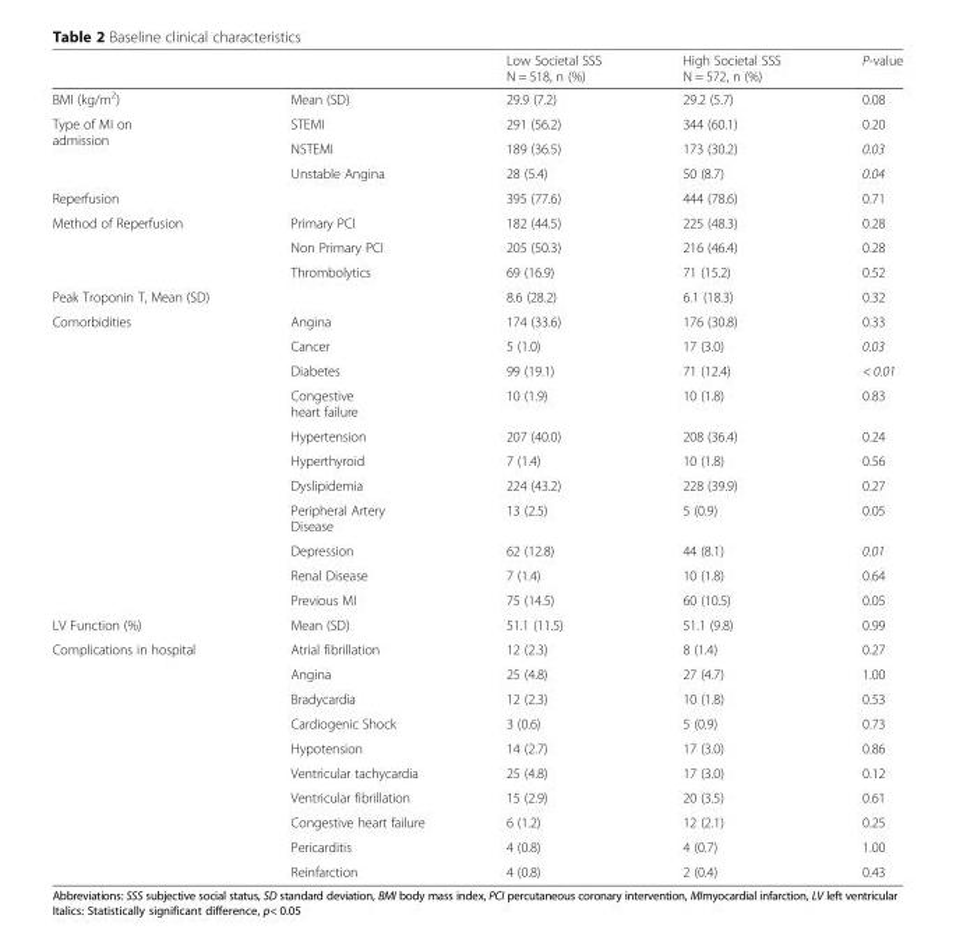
<table><thead><tr><td></td><td></td><td>Low Societal SSS N = 518, n (%)</td><td>High Societal SSS N = 572, n (%)</td><td>P-value</td></tr></thead><tbody><tr><td>BMI (kg/m<sup>2</sup>)</td><td>Mean (SD)</td><td>29.9 (7.2)</td><td>29.2 (5.7)</td><td>0.08</td></tr><tr><td rowspan="3">Type of MI on admission</td><td>STEMI</td><td>291 (56.2)</td><td>344 (60.1)</td><td>0.20</td></tr><tr><td>NSTEMI</td><td>189 (36.5)</td><td>173 (30.2)</td><td>0.03</td></tr><tr><td>Unstable Angina</td><td>28 (5.4)</td><td>50 (8.7)</td><td>0.04</td></tr><tr><td>Reperfusion</td><td></td><td>395 (77.6)</td><td>444 (78.6)</td><td>0.71</td></tr><tr><td rowspan="3">Method of Reperfusion</td><td>Primary PCI</td><td>182 (44.5)</td><td>225 (48.3)</td><td>0.28</td></tr><tr><td>Non Primary PCI</td><td>205 (50.3)</td><td>216 (46.4)</td><td>0.28</td></tr><tr><td>Thrombolytics</td><td>69 (16.9)</td><td>71 (15.2)</td><td>0.52</td></tr><tr><td>Peak Troponin T, Mean (SD)</td><td></td><td>8.6 (28.2)</td><td>6.1 (18.3)</td><td>0.32</td></tr><tr><td rowspan="11">Comorbidities</td><td>Angina</td><td>174 (33.6)</td><td>176 (30.8)</td><td>0.33</td></tr><tr><td>Cancer</td><td>5 (1.0)</td><td>17 (3.0)</td><td>0.03</td></tr><tr><td>Diabetes</td><td>99 (19.1)</td><td>71 (12.4)</td><td>&lt; 0.01</td></tr><tr><td>Congestive heart failure</td><td>10 (1.9)</td><td>10 (1.8)</td><td>0.83</td></tr><tr><td>Hypertension</td><td>207 (40.0)</td><td>208 (36.4)</td><td>0.24</td></tr><tr><td>Hyperthyroid</td><td>7 (1.4)</td><td>10 (1.8)</td><td>0.56</td></tr><tr><td>Dyslipidemia</td><td>224 (43.2)</td><td>228 (39.9)</td><td>0.27</td></tr><tr><td>Peripheral Artery Disease</td><td>13 (2.5)</td><td>5 (0.9)</td><td>0.05</td></tr><tr><td>Depression</td><td>62 (12.8)</td><td>44 (8.1)</td><td>0.01</td></tr><tr><td>Renal Disease</td><td>7 (1.4)</td><td>10 (1.8)</td><td>0.64</td></tr><tr><td>Previous MI</td><td>75 (14.5)</td><td>60 (10.5)</td><td>0.05</td></tr><tr><td>LV Function (%)</td><td>Mean (SD)</td><td>51.1 (11.5)</td><td>51.1 (9.8)</td><td>0.99</td></tr><tr><td rowspan="10">Complications in hospital</td><td>Atrial fibrillation</td><td>12 (2.3)</td><td>8 (1.4)</td><td>0.27</td></tr><tr><td>Angina</td><td>25 (4.8)</td><td>27 (4.7)</td><td>1.00</td></tr><tr><td>Bradycardia</td><td>12 (2.3)</td><td>10 (1.8)</td><td>0.53</td></tr><tr><td>Cardiogenic Shock</td><td>3 (0.6)</td><td>5 (0.9)</td><td>0.73</td></tr><tr><td>Hypotension</td><td>14 (2.7)</td><td>17 (3.0)</td><td>0.86</td></tr><tr><td>Ventricular tachycardia</td><td>25 (4.8)</td><td>17 (3.0)</td><td>0.12</td></tr><tr><td>Ventricular fibrillation</td><td>15 (2.9)</td><td>20 (3.5)</td><td>0.61</td></tr><tr><td>Congestive heart failure</td><td>6 (1.2)</td><td>12 (2.1)</td><td>0.25</td></tr><tr><td>Pericarditis</td><td>4 (0.8)</td><td>4 (0.7)</td><td>1.00</td></tr><tr><td>Reinfarction</td><td>4 (0.8)</td><td>2 (0.4)</td><td>0.43</td></tr></tbody></table>